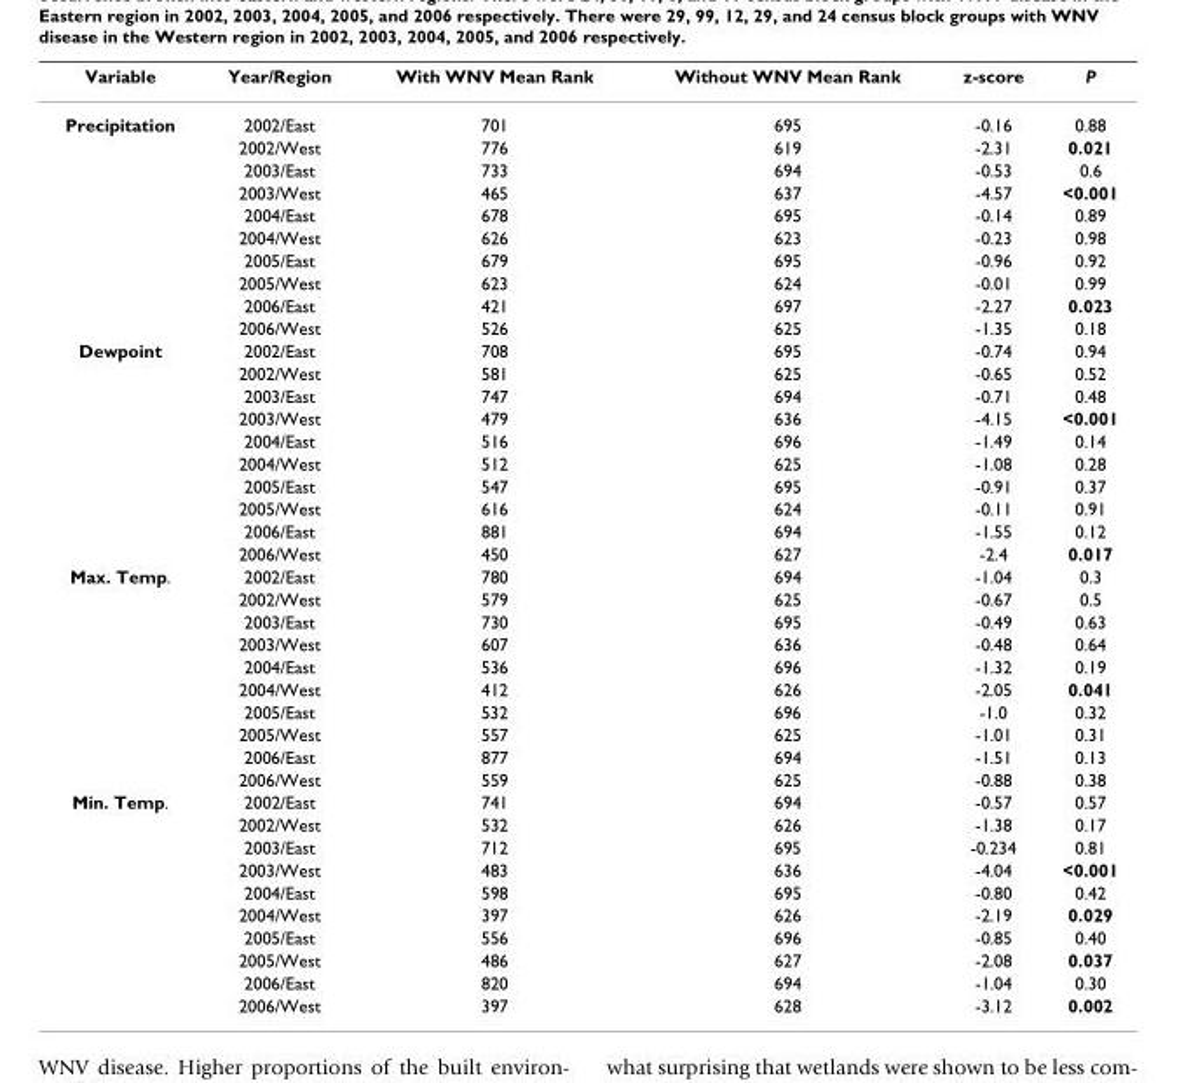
<table><thead><tr><td>Variable</td><td>Year/Region</td><td>With WNV Mean Rank</td><td>Without WNV Mean Rank</td><td>z-score</td><td>P</td></tr></thead><tbody><tr><td rowspan="10">Precipitation</td><td>2002/East</td><td>701</td><td>695</td><td>-0.16</td><td>0.88</td></tr><tr><td>2002/West</td><td>776</td><td>619</td><td>-2.31</td><td>0.021</td></tr><tr><td>2003/East</td><td>733</td><td>694</td><td>-0.53</td><td>0.6</td></tr><tr><td>2003/West</td><td>465</td><td>637</td><td>-4.57</td><td>&lt;0.001</td></tr><tr><td>2004/East</td><td>678</td><td>695</td><td>-0.14</td><td>0.89</td></tr><tr><td>2004/West</td><td>626</td><td>623</td><td>-0.23</td><td>0.98</td></tr><tr><td>2005/East</td><td>679</td><td>695</td><td>-0.96</td><td>0.92</td></tr><tr><td>2005/West</td><td>623</td><td>624</td><td>-0.01</td><td>0.99</td></tr><tr><td>2006/East</td><td>421</td><td>697</td><td>-2.27</td><td>0.023</td></tr><tr><td>2006/West</td><td>526</td><td>625</td><td>-1.35</td><td>0.18</td></tr><tr><td rowspan="10">Dewpoint</td><td>2002/East</td><td>708</td><td>695</td><td>-0.74</td><td>0.94</td></tr><tr><td>2002/West</td><td>581</td><td>625</td><td>-0.65</td><td>0.52</td></tr><tr><td>2003/East</td><td>747</td><td>694</td><td>-0.71</td><td>0.48</td></tr><tr><td>2003/West</td><td>479</td><td>636</td><td>-4.15</td><td>&lt;0.001</td></tr><tr><td>2004/East</td><td>516</td><td>696</td><td>-1.49</td><td>0.14</td></tr><tr><td>2004/West</td><td>512</td><td>625</td><td>-1.08</td><td>0.28</td></tr><tr><td>2005/East</td><td>547</td><td>695</td><td>-0.91</td><td>0.37</td></tr><tr><td>2005/West</td><td>616</td><td>624</td><td>-0.11</td><td>0.91</td></tr><tr><td>2006/East</td><td>881</td><td>694</td><td>-1.55</td><td>0.12</td></tr><tr><td>2006/West</td><td>450</td><td>627</td><td>-2.4</td><td>0.017</td></tr><tr><td rowspan="10">Max. Temp.</td><td>2002/East</td><td>780</td><td>694</td><td>-1.04</td><td>0.3</td></tr><tr><td>2002/West</td><td>579</td><td>625</td><td>-0.67</td><td>0.5</td></tr><tr><td>2003/East</td><td>730</td><td>695</td><td>-0.49</td><td>0.63</td></tr><tr><td>2003/West</td><td>607</td><td>636</td><td>-0.48</td><td>0.64</td></tr><tr><td>2004/East</td><td>536</td><td>696</td><td>-1.32</td><td>0.19</td></tr><tr><td>2004/West</td><td>412</td><td>626</td><td>-2.05</td><td>0.041</td></tr><tr><td>2005/East</td><td>532</td><td>696</td><td>-1.0</td><td>0.32</td></tr><tr><td>2005/West</td><td>557</td><td>625</td><td>-1.01</td><td>0.31</td></tr><tr><td>2006/East</td><td>877</td><td>694</td><td>-1.51</td><td>0.13</td></tr><tr><td>2006/West</td><td>559</td><td>625</td><td>-0.88</td><td>0.38</td></tr><tr><td rowspan="10">Min. Temp.</td><td>2002/East</td><td>741</td><td>694</td><td>-0.57</td><td>0.57</td></tr><tr><td>2002/West</td><td>532</td><td>626</td><td>-1.38</td><td>0.17</td></tr><tr><td>2003/East</td><td>712</td><td>695</td><td>-0.234</td><td>0.81</td></tr><tr><td>2003/West</td><td>483</td><td>636</td><td>-4.04</td><td>&lt;0.001</td></tr><tr><td>2004/East</td><td>598</td><td>695</td><td>-0.80</td><td>0.42</td></tr><tr><td>2004/West</td><td>397</td><td>626</td><td>-2.19</td><td>0.029</td></tr><tr><td>2005/East</td><td>556</td><td>696</td><td>-0.85</td><td>0.40</td></tr><tr><td>2005/West</td><td>486</td><td>627</td><td>-2.08</td><td>0.037</td></tr><tr><td>2006/East</td><td>820</td><td>694</td><td>-1.04</td><td>0.30</td></tr><tr><td>2006/West</td><td>397</td><td>628</td><td>-3.12</td><td>0.002</td></tr></tbody></table>